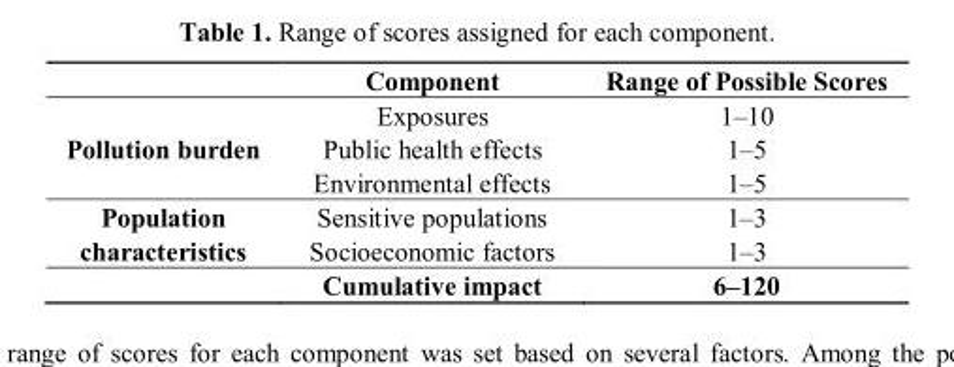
<table><thead><tr><td></td><td>Component</td><td>Range of Possible Scores</td></tr></thead><tbody><tr><td rowspan="3">Pollution burden</td><td>Exposures</td><td>1–10</td></tr><tr><td>Public health effects</td><td>1–5</td></tr><tr><td>Environmental effects</td><td>1–5</td></tr><tr><td rowspan="3">Population characteristics</td><td>Sensitive populations</td><td>1–3</td></tr><tr><td>Socioeconomic factors</td><td>1–3</td></tr><tr><td>Cumulative impact</td><td>6–120</td></tr></tbody></table>